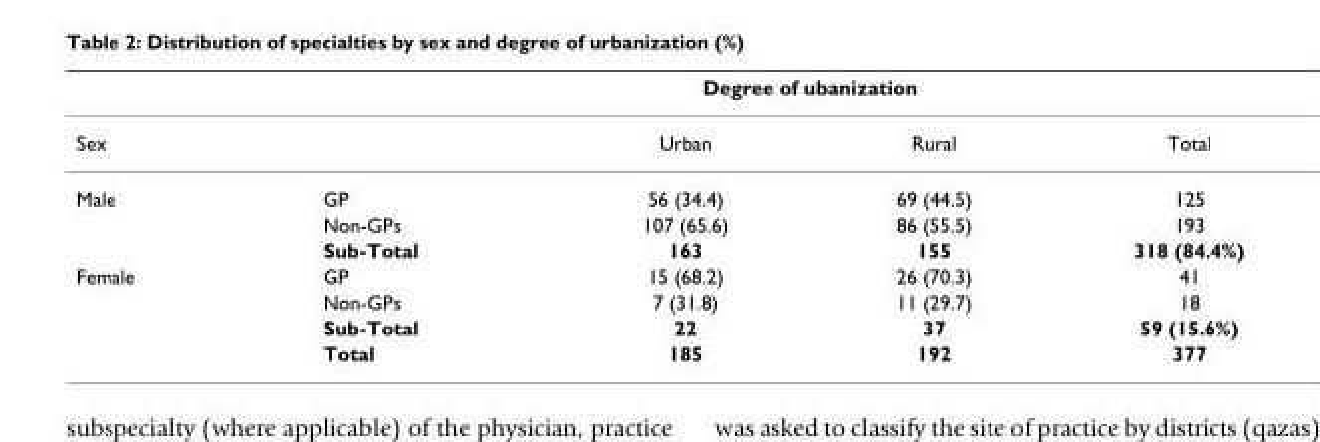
<table><thead><tr><td rowspan="2">Sex</td><td rowspan="2"></td><td colspan="2">Degree of ubanization</td><td rowspan="2">Total</td></tr><tr><td>Urban</td><td>Rural</td></tr></thead><tbody><tr><td rowspan="3">Male</td><td>GP</td><td>56 (34.4)</td><td>69 (44.5)</td><td>125</td></tr><tr><td>Non-GPs</td><td>107 (65.6)</td><td>86 (55.5)</td><td>193</td></tr><tr><td>Sub-Total</td><td>163</td><td>155</td><td>318 (84.4%)</td></tr><tr><td rowspan="4">Female</td><td>GP</td><td>15 (68.2)</td><td>26 (70.3)</td><td>41</td></tr><tr><td>Non-GPs</td><td>7 (31.8)</td><td>11 (29.7)</td><td>18</td></tr><tr><td>Sub-Total</td><td>22</td><td>37</td><td>59 (15.6%)</td></tr><tr><td>Total</td><td>185</td><td>192</td><td>377</td></tr></tbody></table>